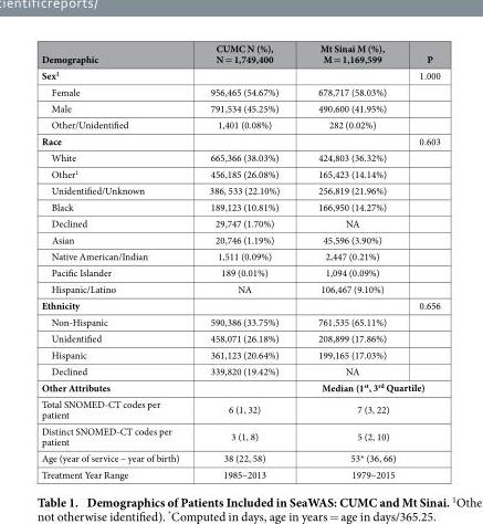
<table><thead><tr><td>Demographic</td><td>CUMC N (%), N = 1,749,400</td><td>Mt Sinai M (%), M = 1,169,599</td><td>P</td></tr></thead><tbody><tr><td>Sex<sup>1</sup></td><td></td><td></td><td>1.000</td></tr><tr><td>Female</td><td>956,465 (54.67%)</td><td>678,717 (58.03%)</td><td></td></tr><tr><td>Male</td><td>791,534 (45.25%)</td><td>490,600 (41.95%)</td><td></td></tr><tr><td>Other/Unidentified</td><td>1,401 (0.08%)</td><td>282 (0.02%)</td><td></td></tr><tr><td>Race</td><td></td><td></td><td>0.603</td></tr><tr><td>White</td><td>665,366 (38.03%)</td><td>424,803 (36.32%)</td><td></td></tr><tr><td>Other<sup>1</sup></td><td>456,185 (26.08%)</td><td>165,423 (14.14%)</td><td></td></tr><tr><td>Unidentified/Unknown</td><td>386, 533 (22.10%)</td><td>256,819 (21.96%)</td><td></td></tr><tr><td>Black</td><td>189,123 (10.81%)</td><td>166,950 (14.27%)</td><td></td></tr><tr><td>Declined</td><td>29,747 (1.70%)</td><td>NA</td><td></td></tr><tr><td>Asian</td><td>20,746 (1.19%)</td><td>45,596 (3.90%)</td><td></td></tr><tr><td>Native American/Indian</td><td>1,511 (0.09%)</td><td>2,447 (0.21%)</td><td></td></tr><tr><td>Pacific Islander</td><td>189 (0.01%)</td><td>1,094 (0.09%)</td><td></td></tr><tr><td>Hispanic/Latino</td><td>NA</td><td>106,467 (9.10%)</td><td></td></tr><tr><td>Ethnicity</td><td></td><td></td><td>0.656</td></tr><tr><td>Non-Hispanic</td><td>590,386 (33.75%)</td><td>761,535 (65.11%)</td><td></td></tr><tr><td>Unidentified</td><td>458,071 (26.18%)</td><td>208,899 (17.86%)</td><td></td></tr><tr><td>Hispanic</td><td>361,123 (20.64%)</td><td>199,165 (17.03%)</td><td></td></tr><tr><td>Declined</td><td>339,820 (19.42%)</td><td>NA</td><td></td></tr><tr><td>Other Attributes</td><td></td><td colspan="2">Median (1<sup>st</sup>, 3<sup>rd</sup> Quartile)</td></tr><tr><td>Total SNOMED-CT codes per patient</td><td>6 (1, 32)</td><td colspan="2">7 (3, 22)</td></tr><tr><td>Distinct SNOMED-CT codes per patient</td><td>3 (1, 8)</td><td colspan="2">5 (2, 10)</td></tr><tr><td>Age (year of service – year of birth)</td><td>38 (22, 58)</td><td colspan="2">53* (36, 66)</td></tr><tr><td>Treatment Year Range</td><td>1985–2013</td><td colspan="2">1979–2015</td></tr></tbody></table>